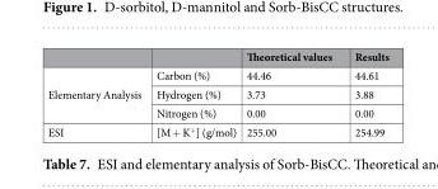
<table><thead><tr><td></td><td></td><td>Theoretical values</td><td>Results</td></tr></thead><tbody><tr><td rowspan="3">Elementary Analysis</td><td>Carbon (%)</td><td>44.46</td><td>44.61</td></tr><tr><td>Hydrogen (%)</td><td>3.73</td><td>3.88</td></tr><tr><td>Nitrogen (%)</td><td>0.00</td><td>0.00</td></tr><tr><td>ESI</td><td>[M + K<sup>+</sup>] (g/mol)</td><td>255.00</td><td>254.99</td></tr></tbody></table>